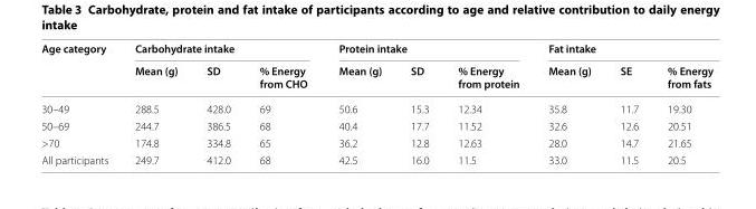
<table><thead><tr><td rowspan="2">Age category</td><td colspan="3">Carbohydrate intake</td><td colspan="3">Protein intake</td><td colspan="3">Fat intake</td></tr><tr><td>Mean (g)</td><td>SD</td><td>% Energy from CHO</td><td>Mean (g)</td><td>SD</td><td>% Energy from protein</td><td>Mean (g)</td><td>SE</td><td>% Energy from fats</td></tr></thead><tbody><tr><td>30–49</td><td>288.5</td><td>428.0</td><td>69</td><td>50.6</td><td>15.3</td><td>12.34</td><td>35.8</td><td>11.7</td><td>19.30</td></tr><tr><td>50–69</td><td>244.7</td><td>386.5</td><td>68</td><td>40.4</td><td>17.7</td><td>11.52</td><td>32.6</td><td>12.6</td><td>20.51</td></tr><tr><td>&gt;70</td><td>174.8</td><td>334.8</td><td>65</td><td>36.2</td><td>12.8</td><td>12.63</td><td>28.0</td><td>14.7</td><td>21.65</td></tr><tr><td>All participants</td><td>249.7</td><td>412.0</td><td>68</td><td>42.5</td><td>16.0</td><td>11.5</td><td>33.0</td><td>11.5</td><td>20.5</td></tr></tbody></table>